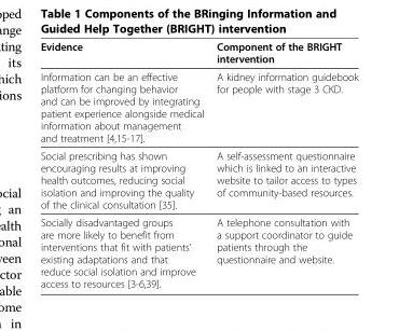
<table><thead><tr><td>Evidence</td><td>Component of the BRIGHT intervention</td></tr></thead><tbody><tr><td>Information can be an effective platform for changing behavior and can be improved by integrating patient experience alongside medical information about management and treatment [4,15-17].</td><td>A kidney information guidebook for people with stage 3 CKD.</td></tr><tr><td>Social prescribing has shown encouraging results at improving health outcomes, reducing social isolation and improving the quality of the clinical consultation [35].</td><td>A self-assessment questionnaire which is linked to an interactive website to tailor access to types of community-based resources.</td></tr><tr><td>Socially disadvantaged groups are more likely to benefit from interventions that fit with patients’ existing adaptations and that reduce social isolation and improve access to resources [3-6,39].</td><td>A telephone consultation with a support coordinator to guide patients through the questionnaire and website.</td></tr></tbody></table>